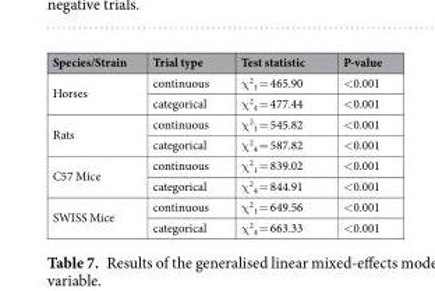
<table><thead><tr><td>Species/Strain</td><td>Trial type</td><td>Test statistic</td><td>P-value</td></tr></thead><tbody><tr><td rowspan="2">Horses</td><td>continuous</td><td>χ<sup>2</sup> <sub>1</sub> = 465.90</td><td>&lt;0.001</td></tr><tr><td>categorical</td><td>χ<sup>2</sup> <sub>4</sub> = 477.44</td><td>&lt;0.001</td></tr><tr><td rowspan="2">Rats</td><td>continuous</td><td>χ<sup>2</sup> <sub>1</sub> = 545.82</td><td>&lt;0.001</td></tr><tr><td>categorical</td><td>χ<sup>2</sup> <sub>4</sub> = 587.82</td><td>&lt;0.001</td></tr><tr><td rowspan="2">C57 Mice</td><td>continuous</td><td>χ<sup>2</sup> <sub>1</sub> = 839.02</td><td>&lt;0.001</td></tr><tr><td>categorical</td><td>χ<sup>2</sup> <sub>4</sub> = 844.91</td><td>&lt;0.001</td></tr><tr><td rowspan="2">SWISS Mice</td><td>continuous</td><td>χ<sup>2</sup> <sub>1</sub> = 649.56</td><td>&lt;0.001</td></tr><tr><td>categorical</td><td>χ<sup>2</sup> <sub>4</sub> = 663.33</td><td>&lt;0.001</td></tr></tbody></table>